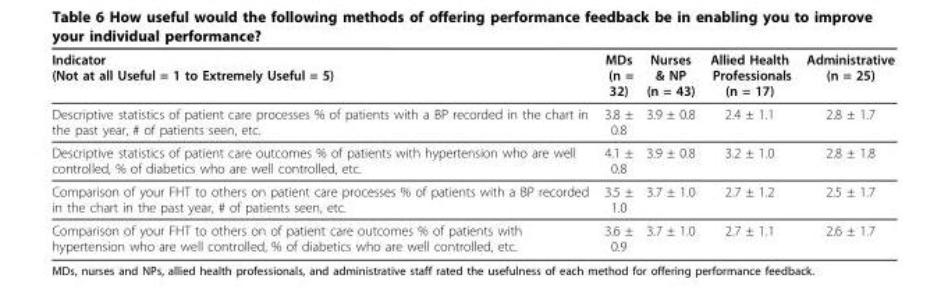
<table><thead><tr><td>Indicator (Not at all Useful = 1 to Extremely Useful = 5)</td><td>MDs (n = 32)</td><td>Nurses &amp; NP (n = 43)</td><td>Allied Health Professionals (n = 17)</td><td>Administrative (n = 25)</td></tr></thead><tbody><tr><td>Descriptive statistics of patient care processes % of patients with a BP recorded in the chart in the past year, # of patients seen, etc.</td><td>3.8 ± 0.8</td><td>3.9 ± 0.8</td><td>2.4 ± 1.1</td><td>2.8 ± 1.7</td></tr><tr><td>Descriptive statistics of patient care outcomes % of patients with hypertension who are well controlled, % of diabetics who are well controlled, etc.</td><td>4.1 ± 0.8</td><td>3.9 ± 0.8</td><td>3.2 ± 1.0</td><td>2.8 ± 1.8</td></tr><tr><td>Comparison of your FHT to others on patient care processes % of patients with a BP recorded in the chart in the past year, # of patients seen, etc.</td><td>3.5 ± 1.0</td><td>3.7 ± 1.0</td><td>2.7 ± 1.2</td><td>2.5 ± 1.7</td></tr><tr><td>Comparison of your FHT to others on of patient care outcomes % of patients with hypertension who are well controlled, % of diabetics who are well controlled, etc.</td><td>3.6 ± 0.9</td><td>3.7 ± 1.0</td><td>2.7 ± 1.1</td><td>2.6 ± 1.7</td></tr></tbody></table>